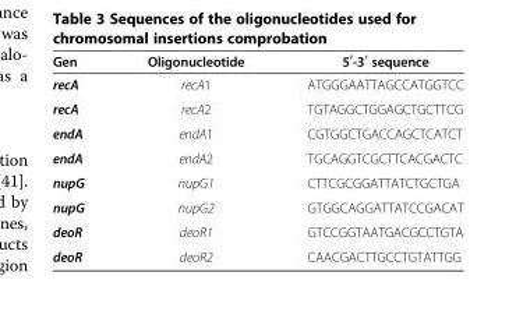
<table><thead><tr><td>Gen</td><td>Oligonucleotide</td><td>5<sup>′</sup>-3<sup>′</sup> sequence</td></tr></thead><tbody><tr><td>recA</td><td>recA1</td><td>ATGGGAATTAGCCATGGTCC</td></tr><tr><td>recA</td><td>recA2</td><td>TGTAGGCTGGAGCTGCTTCG</td></tr><tr><td>endA</td><td>endA1</td><td>CGTGGCTGACCAGCTCATCT</td></tr><tr><td>endA</td><td>endA2</td><td>TGCAGGTCGCTTCACGACTC</td></tr><tr><td>nupG</td><td>nupG1</td><td>CTTCGCGGATTATCTGCTGA</td></tr><tr><td>nupG</td><td>nupG2</td><td>GTGGCAGGATTATCCGACAT</td></tr><tr><td>deoR</td><td>deoR1</td><td>GTCCGGTAATGACGCCTGTA</td></tr><tr><td>deoR</td><td>deoR2</td><td>CAACGACTTGCCTGTATTGG</td></tr></tbody></table>